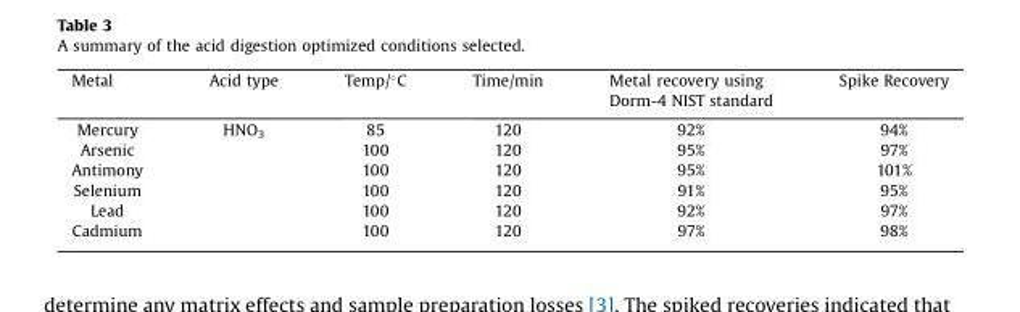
<table><thead><tr><td>Metal</td><td>Acid type</td><td>Temp/°C</td><td>Time/min</td><td>Metal recovery using Dorm-4 NIST standard</td><td>Spike Recovery</td></tr></thead><tbody><tr><td>Mercury</td><td rowspan="6">HNO<sub>3</sub></td><td>85</td><td>120</td><td>92%</td><td>94%</td></tr><tr><td>Arsenic</td><td>100</td><td>120</td><td>95%</td><td>97%</td></tr><tr><td>Antimony</td><td>100</td><td>120</td><td>95%</td><td>101%</td></tr><tr><td>Selenium</td><td>100</td><td>120</td><td>91%</td><td>95%</td></tr><tr><td>Lead</td><td>100</td><td>120</td><td>92%</td><td>97%</td></tr><tr><td>Cadmium</td><td>100</td><td>120</td><td>97%</td><td>98%</td></tr></tbody></table>